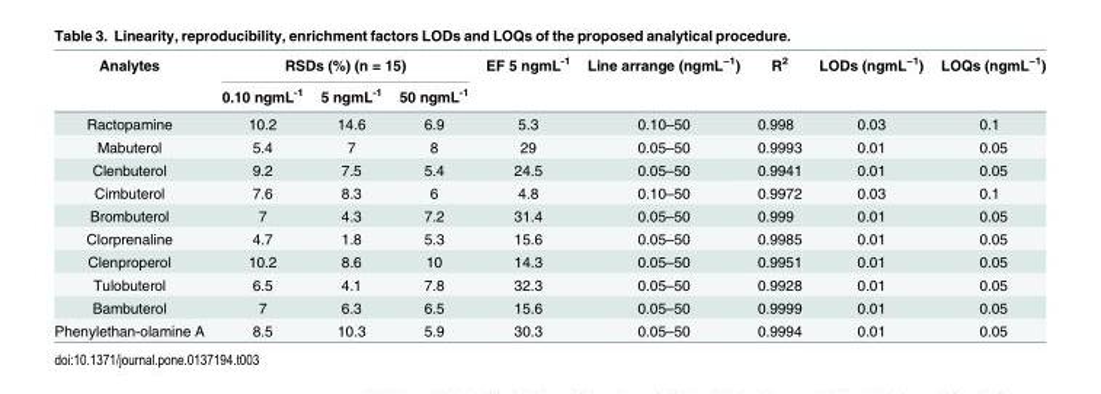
<table><thead><tr><td rowspan="2">Analytes</td><td colspan="3">RSDs (%) (n = 15)</td><td rowspan="2">EF 5 ngmL<sup>-1</sup></td><td rowspan="2">Line arrange (ngmL<sup>−1</sup>)</td><td rowspan="2">R<sup>2</sup></td><td rowspan="2">LODs (ngmL<sup>−1</sup>)</td><td rowspan="2">LOQs (ngmL<sup>−1</sup>)</td></tr><tr><td>0.10 ngmL<sup>-1</sup></td><td>5 ngmL<sup>-1</sup></td><td>50 ngmL<sup>-1</sup></td></tr></thead><tbody><tr><td>Ractopamine</td><td>10.2</td><td>14.6</td><td>6.9</td><td>5.3</td><td>0.10–50</td><td>0.998</td><td>0.03</td><td>0.1</td></tr><tr><td>Mabuterol</td><td>5.4</td><td>7</td><td>8</td><td>29</td><td>0.05–50</td><td>0.9993</td><td>0.01</td><td>0.05</td></tr><tr><td>Clenbuterol</td><td>9.2</td><td>7.5</td><td>5.4</td><td>24.5</td><td>0.05–50</td><td>0.9941</td><td>0.01</td><td>0.05</td></tr><tr><td>Cimbuterol</td><td>7.6</td><td>8.3</td><td>6</td><td>4.8</td><td>0.10–50</td><td>0.9972</td><td>0.03</td><td>0.1</td></tr><tr><td>Brombuterol</td><td>7</td><td>4.3</td><td>7.2</td><td>31.4</td><td>0.05–50</td><td>0.999</td><td>0.01</td><td>0.05</td></tr><tr><td>Clorprenaline</td><td>4.7</td><td>1.8</td><td>5.3</td><td>15.6</td><td>0.05–50</td><td>0.9985</td><td>0.01</td><td>0.05</td></tr><tr><td>Clenproperol</td><td>10.2</td><td>8.6</td><td>10</td><td>14.3</td><td>0.05–50</td><td>0.9951</td><td>0.01</td><td>0.05</td></tr><tr><td>Tulobuterol</td><td>6.5</td><td>4.1</td><td>7.8</td><td>32.3</td><td>0.05–50</td><td>0.9928</td><td>0.01</td><td>0.05</td></tr><tr><td>Bambuterol</td><td>7</td><td>6.3</td><td>6.5</td><td>15.6</td><td>0.05–50</td><td>0.9999</td><td>0.01</td><td>0.05</td></tr><tr><td>Phenylethan-olamine A</td><td>8.5</td><td>10.3</td><td>5.9</td><td>30.3</td><td>0.05–50</td><td>0.9994</td><td>0.01</td><td>0.05</td></tr></tbody></table>